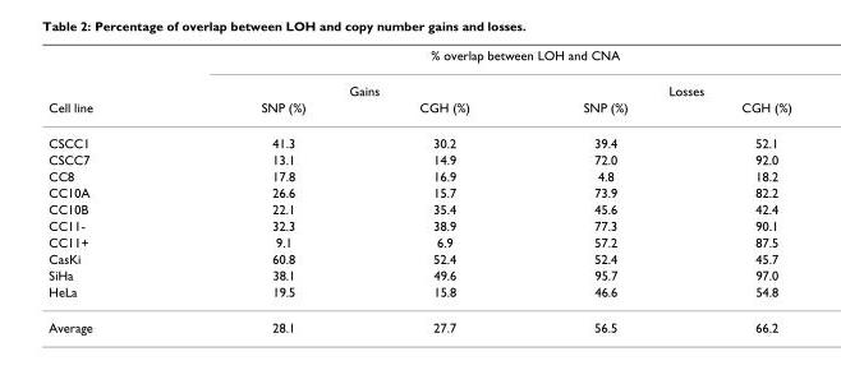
<table><thead><tr><td rowspan="3">Cell line</td><td colspan="4">% overlap between LOH and CNA</td></tr><tr><td colspan="2">Gains</td><td colspan="2">Losses</td></tr><tr><td>SNP (%)</td><td>CGH (%)</td><td>SNP (%)</td><td>CGH (%)</td></tr></thead><tbody><tr><td>CSCC1</td><td>41.3</td><td>30.2</td><td>39.4</td><td>52.1</td></tr><tr><td>CSCC7</td><td>13.1</td><td>14.9</td><td>72.0</td><td>92.0</td></tr><tr><td>CC8</td><td>17.8</td><td>16.9</td><td>4.8</td><td>18.2</td></tr><tr><td>CC10A</td><td>26.6</td><td>15.7</td><td>73.9</td><td>82.2</td></tr><tr><td>CC10B</td><td>22.1</td><td>35.4</td><td>45.6</td><td>42.4</td></tr><tr><td>CC11-</td><td>32.3</td><td>38.9</td><td>77.3</td><td>90.1</td></tr><tr><td>CC11+</td><td>9.1</td><td>6.9</td><td>57.2</td><td>87.5</td></tr><tr><td>CasKi</td><td>60.8</td><td>52.4</td><td>52.4</td><td>45.7</td></tr><tr><td>SiHa</td><td>38.1</td><td>49.6</td><td>95.7</td><td>97.0</td></tr><tr><td>HeLa</td><td>19.5</td><td>15.8</td><td>46.6</td><td>54.8</td></tr><tr><td>Average</td><td>28.1</td><td>27.7</td><td>56.5</td><td>66.2</td></tr></tbody></table>